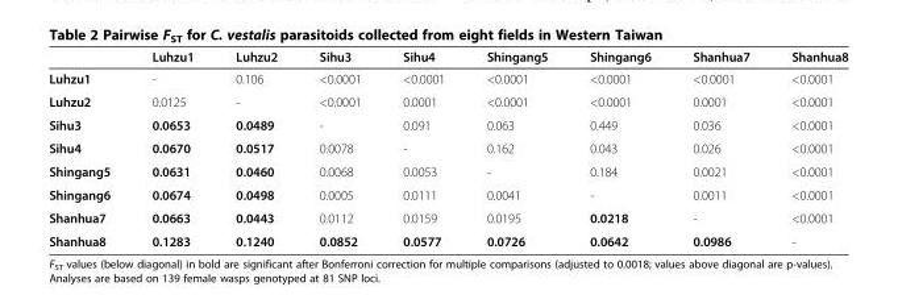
<table><thead><tr><td></td><td>Luhzu1</td><td>Luhzu2</td><td>Sihu3</td><td>Sihu4</td><td>Shingang5</td><td>Shingang6</td><td>Shanhua7</td><td>Shanhua8</td></tr></thead><tbody><tr><td>Luhzu1</td><td>-</td><td>0.106</td><td>&lt;0.0001</td><td>&lt;0.0001</td><td>&lt;0.0001</td><td>&lt;0.0001</td><td>&lt;0.0001</td><td>&lt;0.0001</td></tr><tr><td>Luhzu2</td><td>0.0125</td><td>-</td><td>&lt;0.0001</td><td>0.0001</td><td>&lt;0.0001</td><td>&lt;0.0001</td><td>0.0001</td><td>&lt;0.0001</td></tr><tr><td>Sihu3</td><td>0.0653</td><td>0.0489</td><td>-</td><td>0.091</td><td>0.063</td><td>0.449</td><td>0.036</td><td>&lt;0.0001</td></tr><tr><td>Sihu4</td><td>0.0670</td><td>0.0517</td><td>0.0078</td><td>-</td><td>0.162</td><td>0.043</td><td>0.026</td><td>&lt;0.0001</td></tr><tr><td>Shingang5</td><td>0.0631</td><td>0.0460</td><td>0.0068</td><td>0.0053</td><td>-</td><td>0.184</td><td>0.0021</td><td>&lt;0.0001</td></tr><tr><td>Shingang6</td><td>0.0674</td><td>0.0498</td><td>0.0005</td><td>0.0111</td><td>0.0041</td><td>-</td><td>0.0011</td><td>&lt;0.0001</td></tr><tr><td>Shanhua7</td><td>0.0663</td><td>0.0443</td><td>0.0112</td><td>0.0159</td><td>0.0195</td><td>0.0218</td><td>-</td><td>&lt;0.0001</td></tr><tr><td>Shanhua8</td><td>0.1283</td><td>0.1240</td><td>0.0852</td><td>0.0577</td><td>0.0726</td><td>0.0642</td><td>0.0986</td><td>-</td></tr></tbody></table>